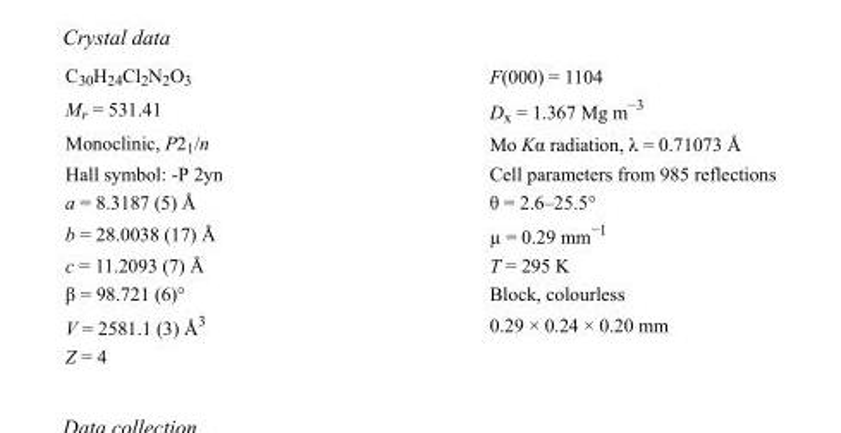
<table><tbody><tr><td>C<sub>30</sub>H<sub>24</sub>Cl<sub>2</sub>N<sub>2</sub>O<sub>3</sub></td><td>F(000) = 1104</td></tr><tr><td>M<sub>r</sub> = 531.41</td><td>D<sub>x</sub> = 1.367 Mg m<sup>−3</sup></td></tr><tr><td>Monoclinic, P2<sub>1</sub>/n</td><td>Mo Kα radiation, λ = 0.71073 Å</td></tr><tr><td>Hall symbol: -P 2yn</td><td>Cell parameters from 985 reflections</td></tr><tr><td>a = 8.3187 (5) Å</td><td>θ = 2.6–25.5°</td></tr><tr><td>b = 28.0038 (17) Å</td><td>µ = 0.29 mm<sup>−1</sup></td></tr><tr><td>c = 11.2093 (7) Å</td><td>T = 295 K</td></tr><tr><td>β = 98.721 (6)°</td><td>Block, colourless</td></tr><tr><td>V = 2581.1 (3) Å<sup>3</sup></td><td>0.29 × 0.24 × 0.20 mm</td></tr><tr><td>Z = 4</td><td></td></tr></tbody></table>